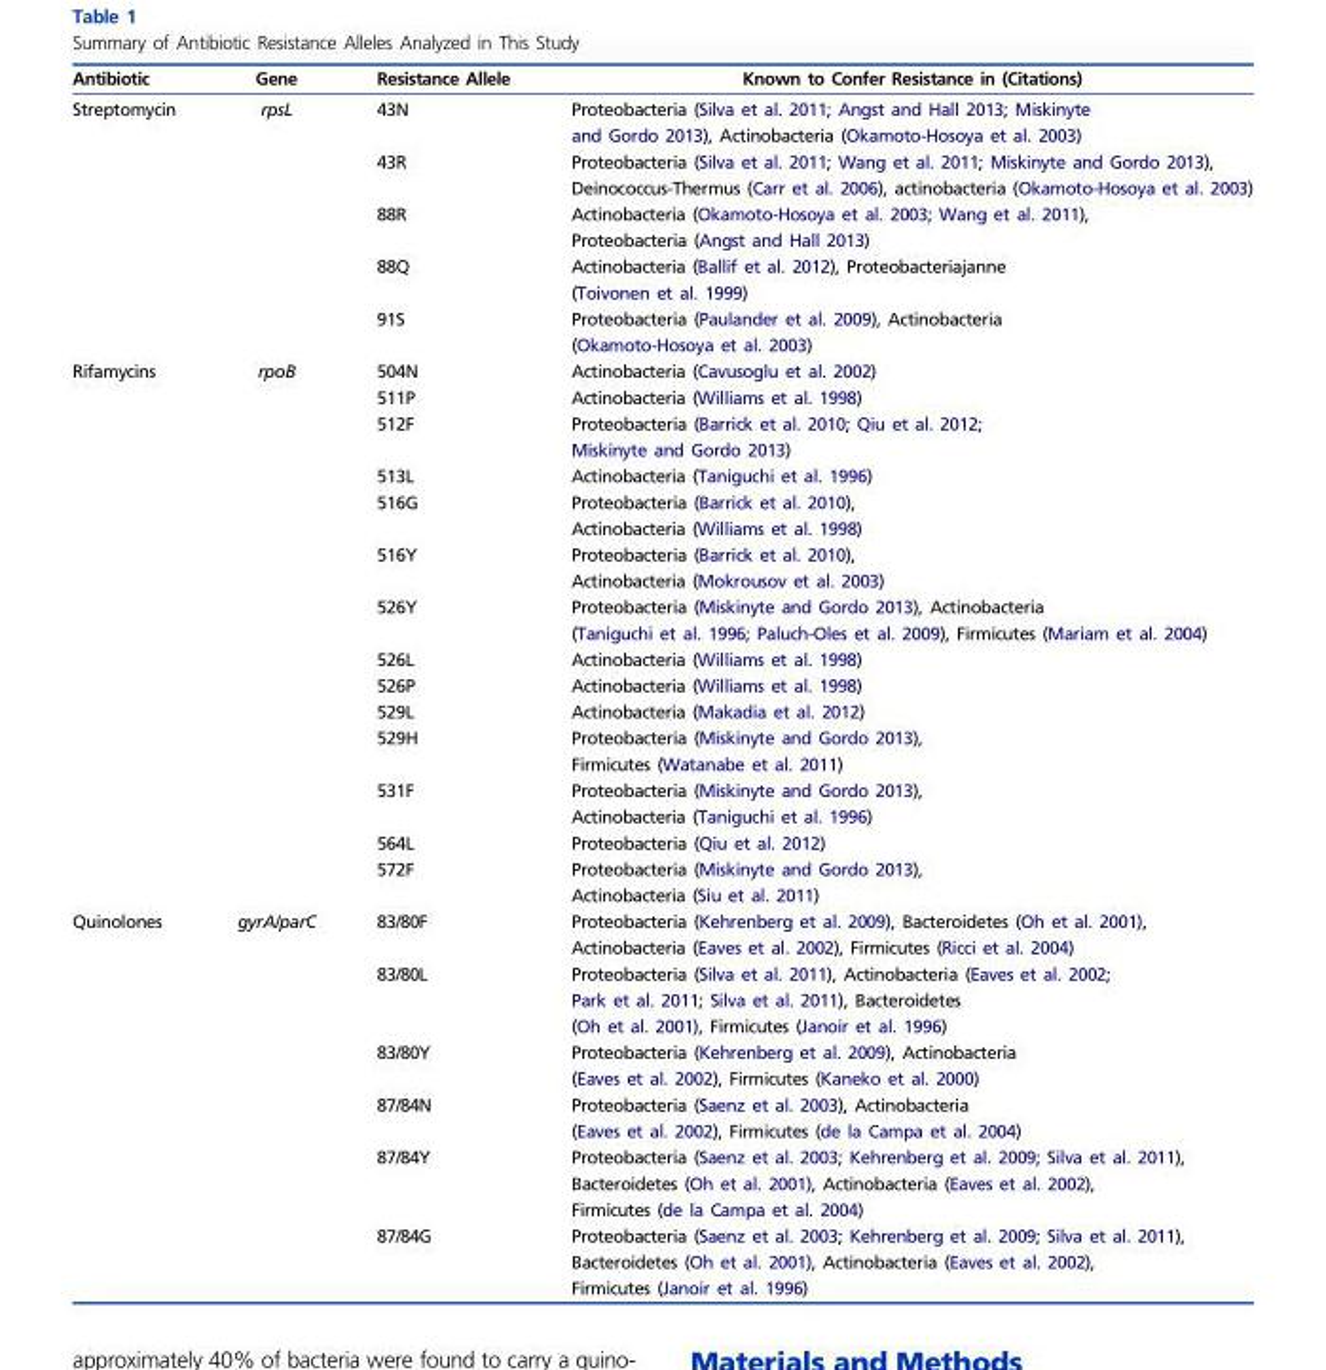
<table><thead><tr><td>Antibiotic</td><td>Gene</td><td>Resistance Allele</td><td>Known to Confer Resistance in (Citations)</td></tr></thead><tbody><tr><td rowspan="5">Streptomycin</td><td rowspan="5">rpsL</td><td>43N</td><td>Proteobacteria (Silva et al. 2011; Angst and Hall 2013; Miskinyte and Gordo 2013), Actinobacteria (Okamoto-Hosoya et al. 2003)</td></tr><tr><td>43R</td><td>Proteobacteria (Silva et al. 2011; Wang et al. 2011; Miskinyte and Gordo 2013), Deinococcus-Thermus (Carr et al. 2006), actinobacteria (Okamoto-Hosoya et al. 2003)</td></tr><tr><td>88R</td><td>Actinobacteria (Okamoto-Hosoya et al. 2003; Wang et al. 2011), Proteobacteria (Angst and Hall 2013)</td></tr><tr><td>88Q</td><td>Actinobacteria (Ballif et al. 2012), Proteobacteriajanne (Toivonen et al. 1999)</td></tr><tr><td>91S</td><td>Proteobacteria (Paulander et al. 2009), Actinobacteria (Okamoto-Hosoya et al. 2003)</td></tr><tr><td rowspan="14">Rifamycins</td><td rowspan="14">rpoB</td><td>504N</td><td>Actinobacteria (Cavusoglu et al. 2002)</td></tr><tr><td>511P</td><td>Actinobacteria (Williams et al. 1998)</td></tr><tr><td>512F</td><td>Proteobacteria (Barrick et al. 2010; Qiu et al. 2012; Miskinyte and Gordo 2013)</td></tr><tr><td>513L</td><td>Actinobacteria (Taniguchi et al. 1996)</td></tr><tr><td>516G</td><td>Proteobacteria (Barrick et al. 2010), Actinobacteria (Williams et al. 1998)</td></tr><tr><td>516Y</td><td>Proteobacteria (Barrick et al. 2010), Actinobacteria (Mokrousov et al. 2003)</td></tr><tr><td>526Y</td><td>Proteobacteria (Miskinyte and Gordo 2013), Actinobacteria (Taniguchi et al. 1996; Paluch-Oles et al. 2009), Firmicutes (Mariam et al. 2004)</td></tr><tr><td>526L</td><td>Actinobacteria (Williams et al. 1998)</td></tr><tr><td>526P</td><td>Actinobacteria (Williams et al. 1998)</td></tr><tr><td>529L</td><td>Actinobacteria (Makadia et al. 2012)</td></tr><tr><td>529H</td><td>Proteobacteria (Miskinyte and Gordo 2013), Firmicutes (Watanabe et al. 2011)</td></tr><tr><td>531F</td><td>Proteobacteria (Miskinyte and Gordo 2013), Actinobacteria (Taniguchi et al. 1996)</td></tr><tr><td>564L</td><td>Proteobacteria (Qiu et al. 2012)</td></tr><tr><td>572F</td><td>Proteobacteria (Miskinyte and Gordo 2013), Actinobacteria (Siu et al. 2011)</td></tr><tr><td rowspan="6">Quinolones</td><td rowspan="6">gyrA/parC</td><td>83/80F</td><td>Proteobacteria (Kehrenberg et al. 2009), Bacteroidetes (Oh et al. 2001), Actinobacteria (Eaves et al. 2002), Firmicutes (Ricci et al. 2004)</td></tr><tr><td>83/80L</td><td>Proteobacteria (Silva et al. 2011), Actinobacteria (Eaves et al. 2002; Park et al. 2011; Silva et al. 2011), Bacteroidetes (Oh et al. 2001), Firmicutes (Janoir et al. 1996)</td></tr><tr><td>83/80Y</td><td>Proteobacteria (Kehrenberg et al. 2009), Actinobacteria (Eaves et al. 2002), Firmicutes (Kaneko et al. 2000)</td></tr><tr><td>87/84N</td><td>Proteobacteria (Saenz et al. 2003), Actinobacteria (Eaves et al. 2002), Firmicutes (de la Campa et al. 2004)</td></tr><tr><td>87/84Y</td><td>Proteobacteria (Saenz et al. 2003; Kehrenberg et al. 2009; Silva et al. 2011), Bacteroidetes (Oh et al. 2001), Actinobacteria (Eaves et al. 2002), Firmicutes (de la Campa et al. 2004)</td></tr><tr><td>87/84G</td><td>Proteobacteria (Saenz et al. 2003; Kehrenberg et al. 2009; Silva et al. 2011), Bacteroidetes (Oh et al. 2001), Actinobacteria (Eaves et al. 2002), Firmicutes (Janoir et al. 1996)</td></tr></tbody></table>